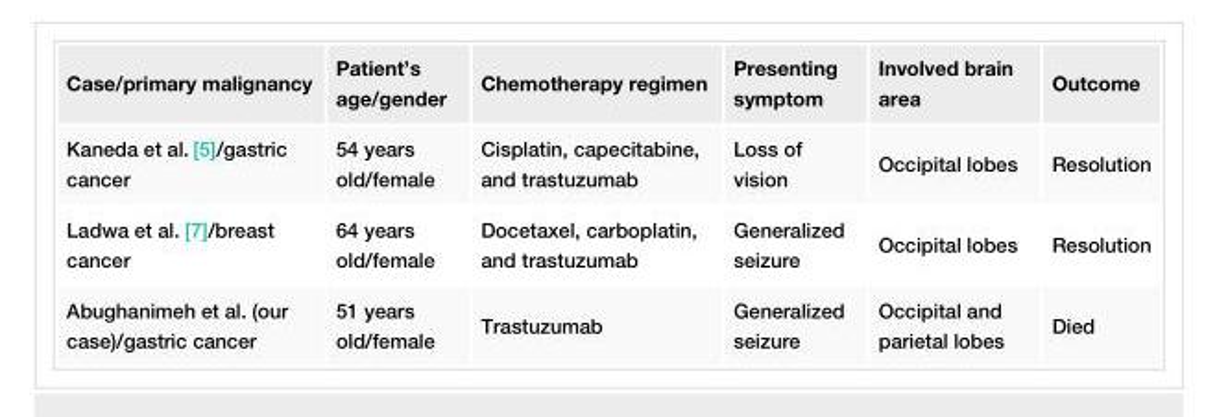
<table><tbody><tr><td>Case/primary malignancy</td><td>Patient’s age/gender</td><td>Chemotherapy regimen</td><td>Presenting symptom</td><td>Involved brain area</td><td>Outcome</td></tr><tr><td>Kaneda et al. [5]/gastric cancer</td><td>54 years old/female</td><td>Cisplatin, capecitabine, and trastuzumab</td><td>Loss of vision</td><td>Occipital lobes</td><td>Resolution</td></tr><tr><td>Ladwa et al. [7]/breast cancer</td><td>64 years old/female</td><td>Docetaxel, carboplatin, and trastuzumab</td><td>Generalized seizure</td><td>Occipital lobes</td><td>Resolution</td></tr><tr><td>Abughanimeh et al. (our case)/gastric cancer</td><td>51 years old/female</td><td>Trastuzumab</td><td>Generalized seizure</td><td>Occipital and parietal lobes</td><td>Died</td></tr></tbody></table>